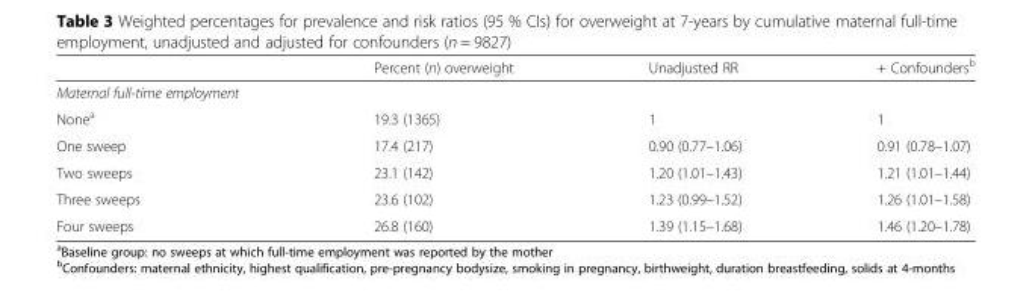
<table><thead><tr><td></td><td>Percent (n) overweight</td><td>Unadjusted RR</td><td>+ Confounders<sup>b</sup></td></tr></thead><tbody><tr><td colspan="4">Maternal full-time employment</td></tr><tr><td>None<sup>a</sup></td><td>19.3 (1365)</td><td>1</td><td>1</td></tr><tr><td>One sweep</td><td>17.4 (217)</td><td>0.90 (0.77–1.06)</td><td>0.91 (0.78–1.07)</td></tr><tr><td>Two sweeps</td><td>23.1 (142)</td><td>1.20 (1.01–1.43)</td><td>1.21 (1.01–1.44)</td></tr><tr><td>Three sweeps</td><td>23.6 (102)</td><td>1.23 (0.99–1.52)</td><td>1.26 (1.01–1.58)</td></tr><tr><td>Four sweeps</td><td>26.8 (160)</td><td>1.39 (1.15–1.68)</td><td>1.46 (1.20–1.78)</td></tr></tbody></table>